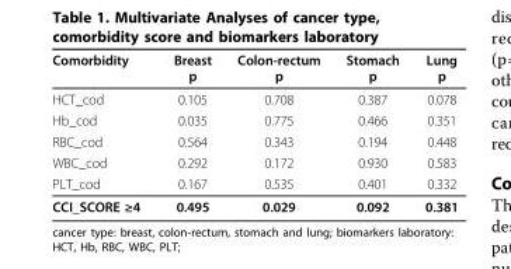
<table><thead><tr><td>Comorbidity</td><td>Breast p</td><td>Colon-rectum p</td><td>Stomach p</td><td>Lung p</td></tr></thead><tbody><tr><td>HCT_cod</td><td>0.105</td><td>0.708</td><td>0.387</td><td>0.078</td></tr><tr><td>Hb_cod</td><td>0.035</td><td>0.775</td><td>0.466</td><td>0.351</td></tr><tr><td>RBC_cod</td><td>0.564</td><td>0.343</td><td>0.194</td><td>0.448</td></tr><tr><td>WBC_cod</td><td>0.292</td><td>0.172</td><td>0.930</td><td>0.583</td></tr><tr><td>PLT_cod</td><td>0.167</td><td>0.535</td><td>0.401</td><td>0.332</td></tr><tr><td>CCI_SCORE ≥4</td><td>0.495</td><td>0.029</td><td>0.092</td><td>0.381</td></tr></tbody></table>